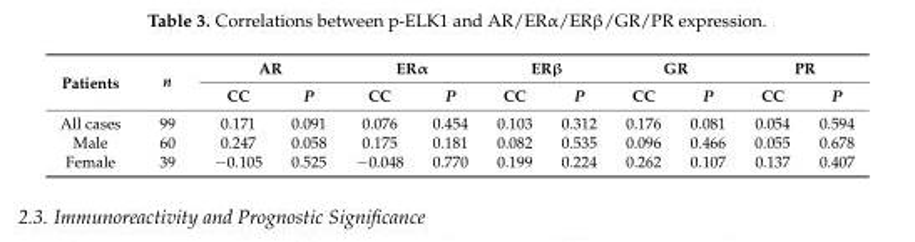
<table><thead><tr><td rowspan="2">Patients</td><td rowspan="2">n</td><td colspan="2">AR</td><td colspan="2">ERα</td><td colspan="2">ERβ</td><td colspan="2">GR</td><td colspan="2">PR</td></tr><tr><td>CC</td><td>P</td><td>CC</td><td>P</td><td>CC</td><td>P</td><td>CC</td><td>P</td><td>CC</td><td>P</td></tr></thead><tbody><tr><td>All cases</td><td>99</td><td>0.171</td><td>0.091</td><td>0.076</td><td>0.454</td><td>0.103</td><td>0.312</td><td>0.176</td><td>0.081</td><td>0.054</td><td>0.594</td></tr><tr><td>Male</td><td>60</td><td>0.247</td><td>0.058</td><td>0.175</td><td>0.181</td><td>0.082</td><td>0.535</td><td>0.096</td><td>0.466</td><td>0.055</td><td>0.678</td></tr><tr><td>Female</td><td>39</td><td>−0.105</td><td>0.525</td><td>−0.048</td><td>0.770</td><td>0.199</td><td>0.224</td><td>0.262</td><td>0.107</td><td>0.137</td><td>0.407</td></tr></tbody></table>